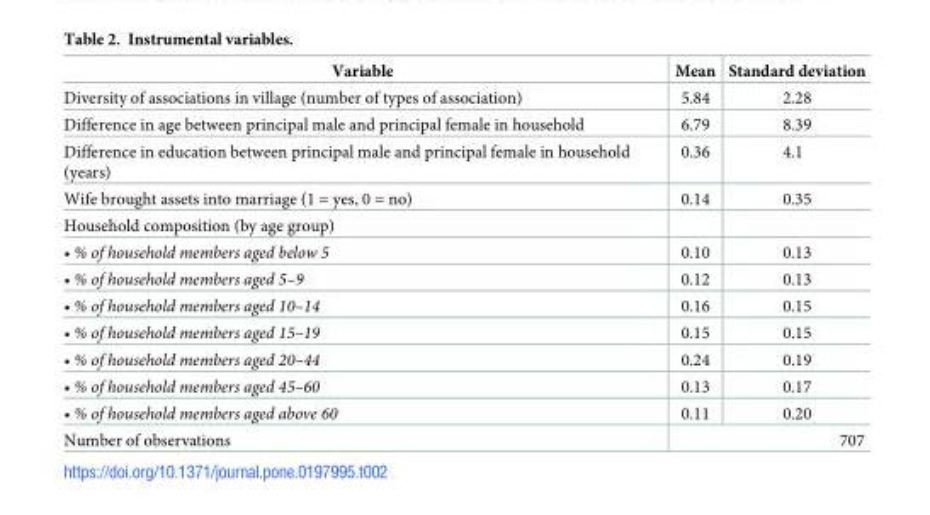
<table><thead><tr><td>Variable</td><td>Mean</td><td>Standard deviation</td></tr></thead><tbody><tr><td>Diversity of associations in village (number of types of association)</td><td>5.84</td><td>2.28</td></tr><tr><td>Difference in age between principal male and principal female in household</td><td>6.79</td><td>8.39</td></tr><tr><td>Difference in education between principal male and principal female in household (years)</td><td>0.36</td><td>4.1</td></tr><tr><td>Wife brought assets into marriage (1 = yes, 0 = no)</td><td>0.14</td><td>0.35</td></tr><tr><td colspan="3">Household composition (by age group)</td></tr><tr><td>• % of household members aged below 5</td><td>0.10</td><td>0.13</td></tr><tr><td>• % of household members aged 5–9</td><td>0.12</td><td>0.13</td></tr><tr><td>• % of household members aged 10–14</td><td>0.16</td><td>0.15</td></tr><tr><td>• % of household members aged 15–19</td><td>0.15</td><td>0.15</td></tr><tr><td>• % of household members aged 20–44</td><td>0.24</td><td>0.19</td></tr><tr><td>• % of household members aged 45–60</td><td>0.13</td><td>0.17</td></tr><tr><td>• % of household members aged above 60</td><td>0.11</td><td>0.20</td></tr><tr><td>Number of observations</td><td colspan="2">707</td></tr></tbody></table>